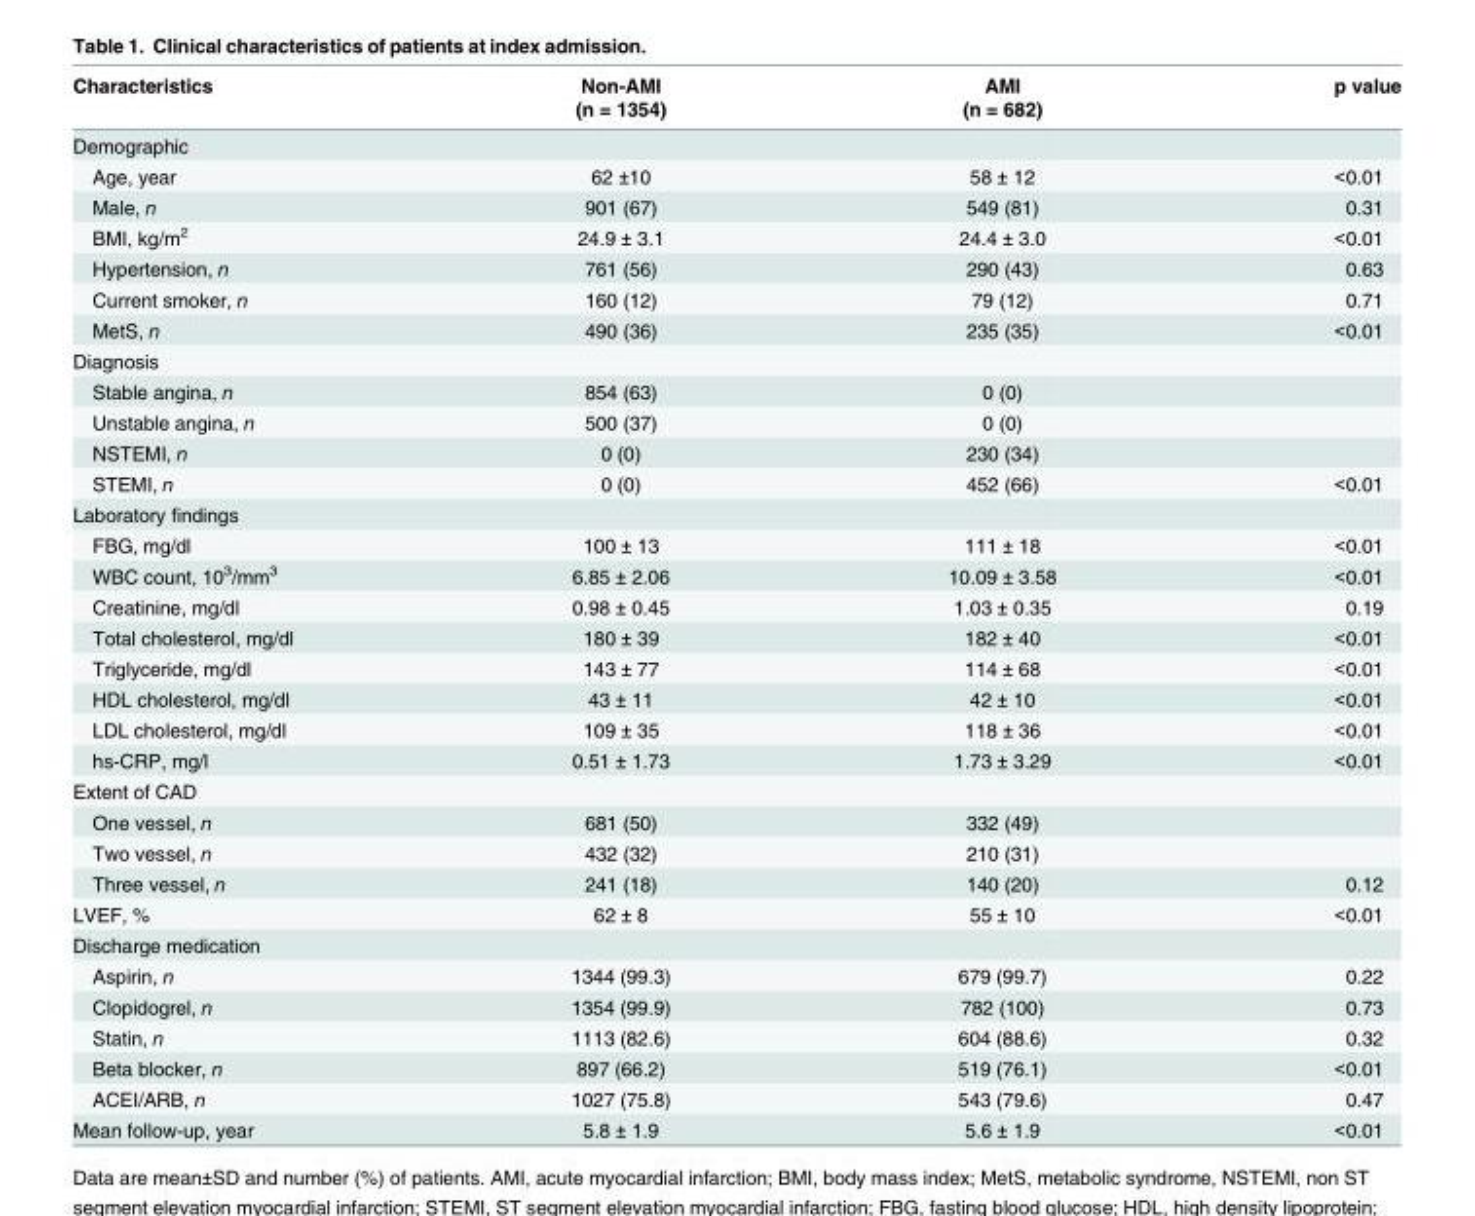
<table><thead><tr><td rowspan="2">Characteristics</td><td rowspan="2">Non-AMI (n = 1354)</td><td rowspan="2">AMI (n = 682)</td><td rowspan="2">p value</td></tr><tr></tr></thead><tbody><tr><td colspan="4">Demographic</td></tr><tr><td>Age, year</td><td>62 ±10</td><td>58 ± 12</td><td>&lt;0.01</td></tr><tr><td>Male, n</td><td>901 (67)</td><td>549 (81)</td><td>0.31</td></tr><tr><td>BMI, kg/m<sup>2</sup></td><td>24.9 ± 3.1</td><td>24.4 ± 3.0</td><td>&lt;0.01</td></tr><tr><td>Hypertension, n</td><td>761 (56)</td><td>290 (43)</td><td>0.63</td></tr><tr><td>Current smoker, n</td><td>160 (12)</td><td>79 (12)</td><td>0.71</td></tr><tr><td>MetS, n</td><td>490 (36)</td><td>235 (35)</td><td>&lt;0.01</td></tr><tr><td colspan="4">Diagnosis</td></tr><tr><td>Stable angina, n</td><td>854 (63)</td><td>0 (0)</td><td></td></tr><tr><td>Unstable angina, n</td><td>500 (37)</td><td>0 (0)</td><td></td></tr><tr><td>NSTEMI, n</td><td>0 (0)</td><td>230 (34)</td><td></td></tr><tr><td>STEMI, n</td><td>0 (0)</td><td>452 (66)</td><td>&lt;0.01</td></tr><tr><td colspan="4">Laboratory findings</td></tr><tr><td>FBG, mg/dl</td><td>100 ± 13</td><td>111 ± 18</td><td>&lt;0.01</td></tr><tr><td>WBC count, 10<sup>3</sup>/mm<sup>3</sup></td><td>6.85 ± 2.06</td><td>10.09 ± 3.58</td><td>&lt;0.01</td></tr><tr><td>Creatinine, mg/dl</td><td>0.98 ± 0.45</td><td>1.03 ± 0.35</td><td>0.19</td></tr><tr><td>Total cholesterol, mg/dl</td><td>180 ± 39</td><td>182 ± 40</td><td>&lt;0.01</td></tr><tr><td>Triglyceride, mg/dl</td><td>143 ± 77</td><td>114 ± 68</td><td>&lt;0.01</td></tr><tr><td>HDL cholesterol, mg/dl</td><td>43 ± 11</td><td>42 ± 10</td><td>&lt;0.01</td></tr><tr><td>LDL cholesterol, mg/dl</td><td>109 ± 35</td><td>118 ± 36</td><td>&lt;0.01</td></tr><tr><td>hs-CRP, mg/l</td><td>0.51 ± 1.73</td><td>1.73 ± 3.29</td><td>&lt;0.01</td></tr><tr><td colspan="4">Extent of CAD</td></tr><tr><td>One vessel, n</td><td>681 (50)</td><td>332 (49)</td><td></td></tr><tr><td>Two vessel, n</td><td>432 (32)</td><td>210 (31)</td><td></td></tr><tr><td>Three vessel, n</td><td>241 (18)</td><td>140 (20)</td><td>0.12</td></tr><tr><td>LVEF, %</td><td>62 ± 8</td><td>55 ± 10</td><td>&lt;0.01</td></tr><tr><td colspan="4">Discharge medication</td></tr><tr><td>Aspirin, n</td><td>1344 (99.3)</td><td>679 (99.7)</td><td>0.22</td></tr><tr><td>Clopidogrel, n</td><td>1354 (99.9)</td><td>782 (100)</td><td>0.73</td></tr><tr><td>Statin, n</td><td>1113 (82.6)</td><td>604 (88.6)</td><td>0.32</td></tr><tr><td>Beta blocker, n</td><td>897 (66.2)</td><td>519 (76.1)</td><td>&lt;0.01</td></tr><tr><td>ACEI/ARB, n</td><td>1027 (75.8)</td><td>543 (79.6)</td><td>0.47</td></tr><tr><td>Mean follow-up, year</td><td>5.8 ± 1.9</td><td>5.6 ± 1.9</td><td>&lt;0.01</td></tr></tbody></table>